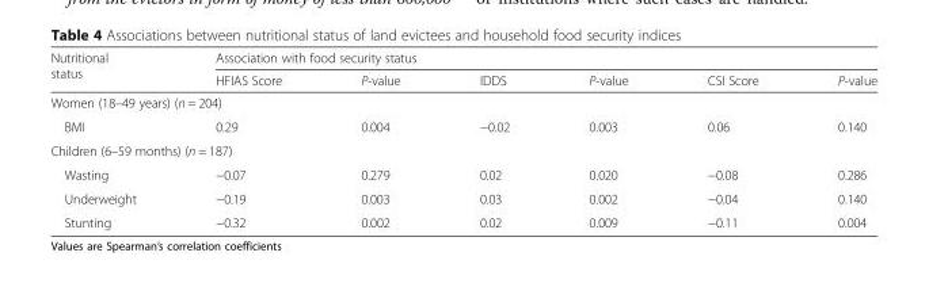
<table><thead><tr><td rowspan="2">Nutritional status</td><td colspan="6">Association with food security status</td></tr><tr><td>HFIAS Score</td><td>P-value</td><td>IDDS</td><td>P-value</td><td>CSI Score</td><td>P-value</td></tr></thead><tbody><tr><td colspan="7">Women (18–49 years) (n = 204)</td></tr><tr><td>BMI</td><td>0.29</td><td>0.004</td><td>−0.02</td><td>0.003</td><td>0.06</td><td>0.140</td></tr><tr><td colspan="7">Children (6–59 months) (n = 187)</td></tr><tr><td>Wasting</td><td>−0.07</td><td>0.279</td><td>0.02</td><td>0.020</td><td>−0.08</td><td>0.286</td></tr><tr><td>Underweight</td><td>−0.19</td><td>0.003</td><td>0.03</td><td>0.002</td><td>−0.04</td><td>0.140</td></tr><tr><td>Stunting</td><td>−0.32</td><td>0.002</td><td>0.02</td><td>0.009</td><td>−0.11</td><td>0.004</td></tr></tbody></table>